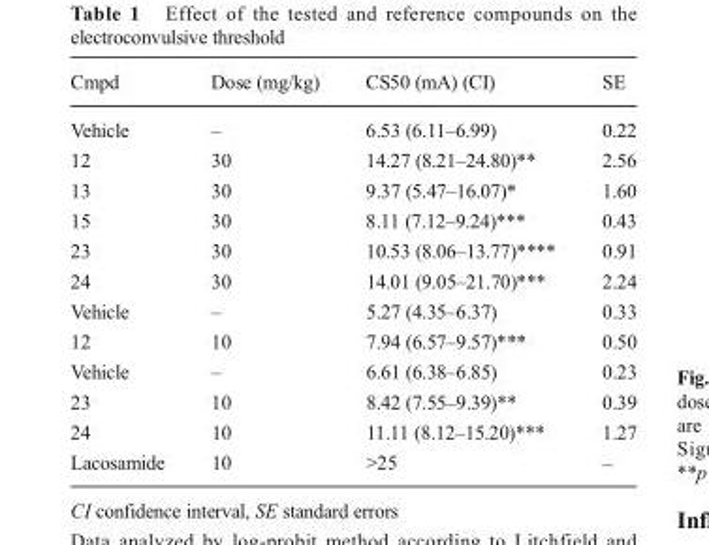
<table><thead><tr><td>Cmpd</td><td>Dose (mg/kg)</td><td>CS50 (mA) (CI)</td><td>SE</td></tr></thead><tbody><tr><td>Vehicle</td><td>–</td><td>6.53 (6.11–6.99)</td><td>0.22</td></tr><tr><td>12</td><td>30</td><td>14.27 (8.21–24.80)**</td><td>2.56</td></tr><tr><td>13</td><td>30</td><td>9.37 (5.47–16.07)*</td><td>1.60</td></tr><tr><td>15</td><td>30</td><td>8.11 (7.12–9.24)***</td><td>0.43</td></tr><tr><td>23</td><td>30</td><td>10.53 (8.06–13.77)****</td><td>0.91</td></tr><tr><td>24</td><td>30</td><td>14.01 (9.05–21.70)***</td><td>2.24</td></tr><tr><td>Vehicle</td><td>–</td><td>5.27 (4.35–6.37)</td><td>0.33</td></tr><tr><td>12</td><td>10</td><td>7.94 (6.57–9.57)***</td><td>0.50</td></tr><tr><td>Vehicle</td><td>–</td><td>6.61 (6.38–6.85)</td><td>0.23</td></tr><tr><td>23</td><td>10</td><td>8.42 (7.55–9.39)**</td><td>0.39</td></tr><tr><td>24</td><td>10</td><td>11.11 (8.12–15.20)***</td><td>1.27</td></tr><tr><td>Lacosamide</td><td>10</td><td>&gt;25</td><td>–</td></tr></tbody></table>